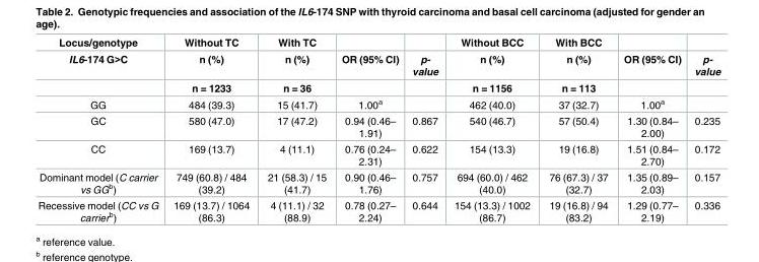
<table><thead><tr><td rowspan="3">Locus/genotype IL6-174 G&gt;C</td><td rowspan="3">Without TC n (%) n = 1233</td><td rowspan="3">With TC n (%) n = 36</td><td rowspan="3">OR (95% CI)</td><td rowspan="3">p- value</td><td rowspan="3">Without BCC n (%) n = 1156</td><td rowspan="3">With BCC n (%) n = 113</td><td rowspan="3">OR (95% CI)</td><td rowspan="3">p- value</td></tr><tr></tr><tr></tr></thead><tbody><tr><td>GG</td><td>484 (39.3)</td><td>15 (41.7)</td><td>1.00<sup>a</sup></td><td></td><td>462 (40.0)</td><td>37 (32.7)</td><td>1.00<sup>a</sup></td><td></td></tr><tr><td>GC</td><td>580 (47.0)</td><td>17 (47.2)</td><td>0.94 (0.46– 1.91)</td><td>0.867</td><td>540 (46.7)</td><td>57 (50.4)</td><td>1.30 (0.84– 2.00)</td><td>0.235</td></tr><tr><td>CC</td><td>169 (13.7)</td><td>4 (11.1)</td><td>0.76 (0.24– 2.31)</td><td>0.622</td><td>154 (13.3)</td><td>19 (16.8)</td><td>1.51 (0.84– 2.70)</td><td>0.172</td></tr><tr><td>Dominant model (C carrier vs GG<sup>b</sup>)</td><td>749 (60.8) / 484 (39.2)</td><td>21 (58.3) / 15 (41.7)</td><td>0.90 (0.46– 1.76)</td><td>0.757</td><td>694 (60.0) / 462 (40.0)</td><td>76 (67.3) / 37 (32.7)</td><td>1.35 (0.89– 2.03)</td><td>0.157</td></tr><tr><td>Recessive model (CC vs G carrier<sup>b</sup>)</td><td>169 (13.7) / 1064 (86.3)</td><td>4 (11.1) / 32 (88.9)</td><td>0.78 (0.27– 2.24)</td><td>0.644</td><td>154 (13.3) / 1002 (86.7)</td><td>19 (16.8) / 94 (83.2)</td><td>1.29 (0.77– 2.19)</td><td>0.336</td></tr></tbody></table>